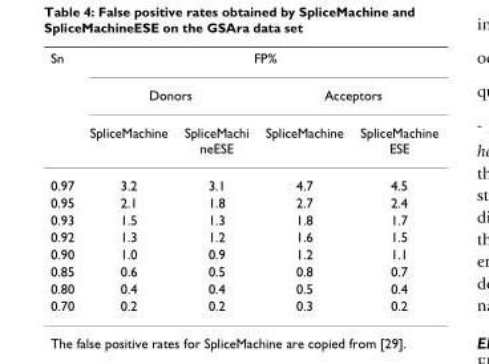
<table><thead><tr><td rowspan="3">Sn</td><td colspan="4">FP%</td></tr><tr><td colspan="2">Donors</td><td colspan="2">Acceptors</td></tr><tr><td>SpliceMachine</td><td>SpliceMachi neESE</td><td>SpliceMachine</td><td>SpliceMachine ESE</td></tr></thead><tbody><tr><td>0.97</td><td>3.2</td><td>3.1</td><td>4.7</td><td>4.5</td></tr><tr><td>0.95</td><td>2.1</td><td>1.8</td><td>2.7</td><td>2.4</td></tr><tr><td>0.93</td><td>1.5</td><td>1.3</td><td>1.8</td><td>1.7</td></tr><tr><td>0.92</td><td>1.3</td><td>1.2</td><td>1.6</td><td>1.5</td></tr><tr><td>0.90</td><td>1.0</td><td>0.9</td><td>1.2</td><td>1.1</td></tr><tr><td>0.85</td><td>0.6</td><td>0.5</td><td>0.8</td><td>0.7</td></tr><tr><td>0.80</td><td>0.4</td><td>0.4</td><td>0.5</td><td>0.4</td></tr><tr><td>0.70</td><td>0.2</td><td>0.2</td><td>0.3</td><td>0.2</td></tr></tbody></table>